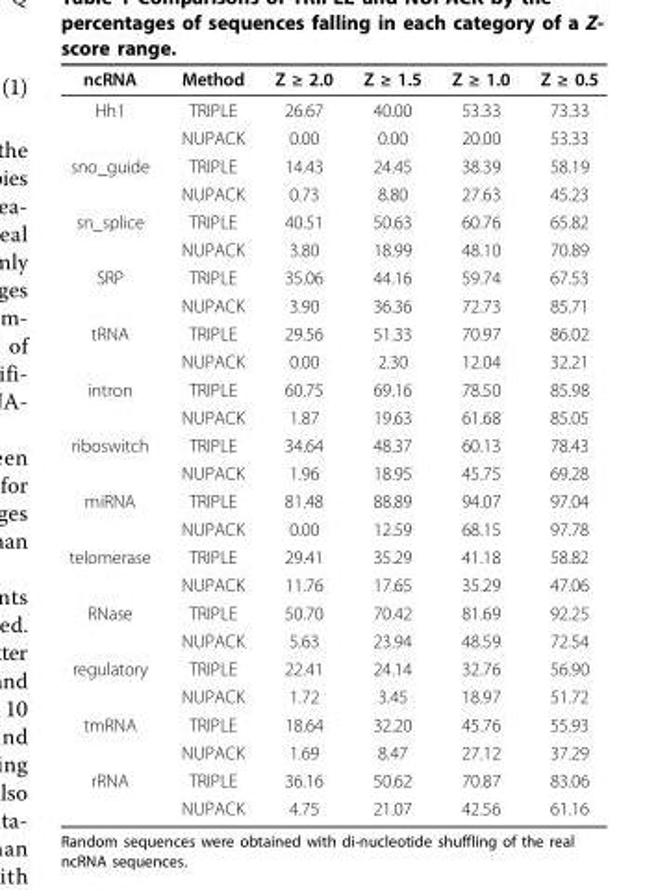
<table><thead><tr><td>ncRNA</td><td>Method</td><td>Z ≥ 2.0</td><td>Z ≥ 1.5</td><td>Z ≥ 1.0</td><td>Z ≥ 0.5</td></tr></thead><tbody><tr><td rowspan="2">Hh1</td><td>TRIPLE</td><td>26.67</td><td>40.00</td><td>53.33</td><td>73.33</td></tr><tr><td>NUPACK</td><td>0.00</td><td>0.00</td><td>20.00</td><td>53.33</td></tr><tr><td rowspan="2">sno_guide</td><td>TRIPLE</td><td>14.43</td><td>24.45</td><td>38.39</td><td>58.19</td></tr><tr><td>NUPACK</td><td>0.73</td><td>8.80</td><td>27.63</td><td>45.23</td></tr><tr><td rowspan="2">sn_splice</td><td>TRIPLE</td><td>40.51</td><td>50.63</td><td>60.76</td><td>65.82</td></tr><tr><td>NUPACK</td><td>3.80</td><td>18.99</td><td>48.10</td><td>70.89</td></tr><tr><td rowspan="2">SRP</td><td>TRIPLE</td><td>35.06</td><td>44.16</td><td>59.74</td><td>67.53</td></tr><tr><td>NUPACK</td><td>3.90</td><td>36.36</td><td>72.73</td><td>85.71</td></tr><tr><td rowspan="2">tRNA</td><td>TRIPLE</td><td>29.56</td><td>51.33</td><td>70.97</td><td>86.02</td></tr><tr><td>NUPACK</td><td>0.00</td><td>2.30</td><td>12.04</td><td>32.21</td></tr><tr><td rowspan="2">intron</td><td>TRIPLE</td><td>60.75</td><td>69.16</td><td>78.50</td><td>85.98</td></tr><tr><td>NUPACK</td><td>1.87</td><td>19.63</td><td>61.68</td><td>85.05</td></tr><tr><td rowspan="2">riboswitch</td><td>TRIPLE</td><td>34.64</td><td>48.37</td><td>60.13</td><td>78.43</td></tr><tr><td>NUPACK</td><td>1.96</td><td>18.95</td><td>45.75</td><td>69.28</td></tr><tr><td rowspan="2">miRNA</td><td>TRIPLE</td><td>81.48</td><td>88.89</td><td>94.07</td><td>97.04</td></tr><tr><td>NUPACK</td><td>0.00</td><td>12.59</td><td>68.15</td><td>97.78</td></tr><tr><td rowspan="2">telomerase</td><td>TRIPLE</td><td>29.41</td><td>35.29</td><td>41.18</td><td>58.82</td></tr><tr><td>NUPACK</td><td>11.76</td><td>17.65</td><td>35.29</td><td>47.06</td></tr><tr><td rowspan="2">RNase</td><td>TRIPLE</td><td>50.70</td><td>70.42</td><td>81.69</td><td>92.25</td></tr><tr><td>NUPACK</td><td>5.63</td><td>23.94</td><td>48.59</td><td>72.54</td></tr><tr><td rowspan="2">regulatory</td><td>TRIPLE</td><td>22.41</td><td>24.14</td><td>32.76</td><td>56.90</td></tr><tr><td>NUPACK</td><td>1.72</td><td>3.45</td><td>18.97</td><td>51.72</td></tr><tr><td rowspan="2">tmRNA</td><td>TRIPLE</td><td>18.64</td><td>32.20</td><td>45.76</td><td>55.93</td></tr><tr><td>NUPACK</td><td>1.69</td><td>8.47</td><td>27.12</td><td>37.29</td></tr><tr><td rowspan="2">rRNA</td><td>TRIPLE</td><td>36.16</td><td>50.62</td><td>70.87</td><td>83.06</td></tr><tr><td>NUPACK</td><td>4.75</td><td>21.07</td><td>42.56</td><td>61.16</td></tr></tbody></table>